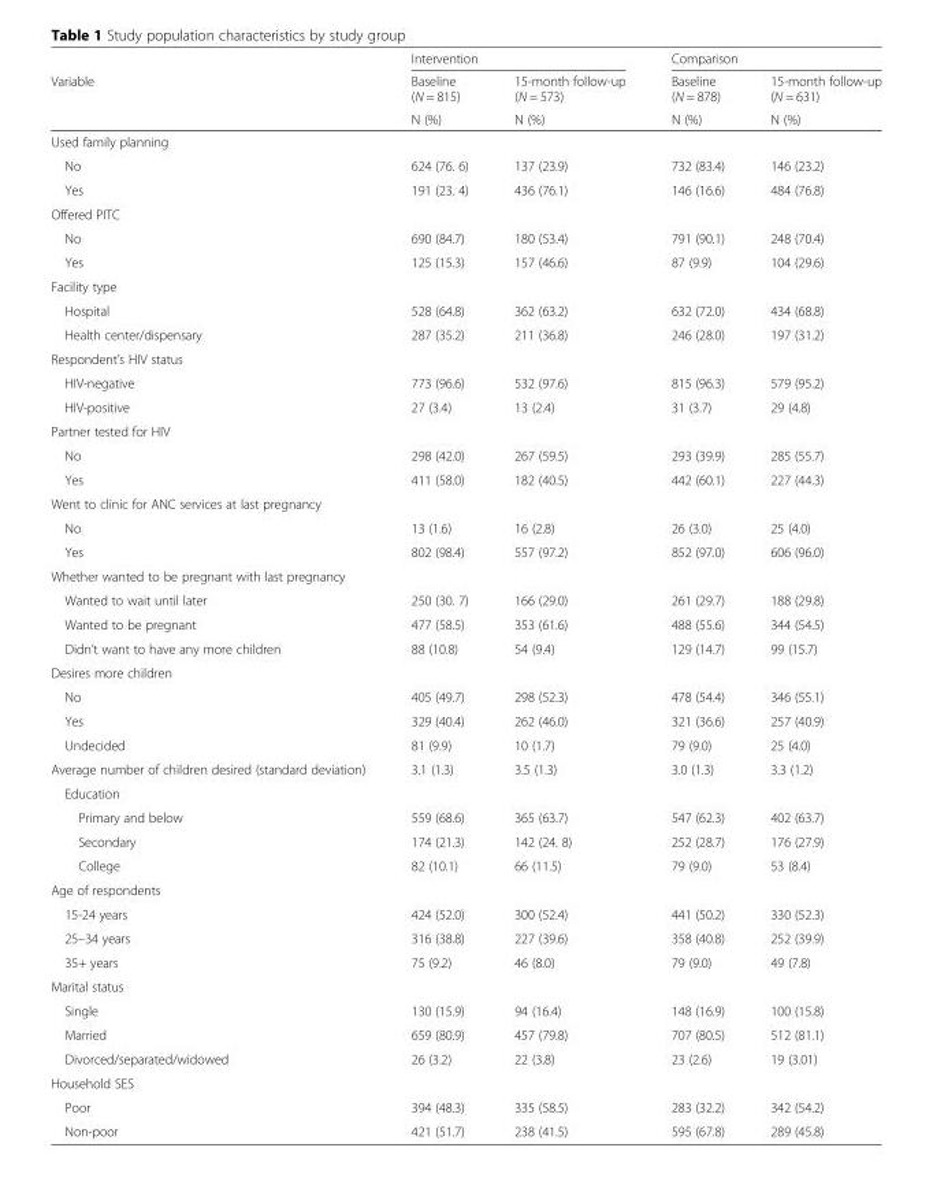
<table><thead><tr><td rowspan="3">Variable</td><td colspan="2">Intervention</td><td colspan="2">Comparison</td></tr><tr><td rowspan="2">Baseline (N = 815) N (%)</td><td rowspan="2">15-month follow-up (N = 573) N (%)</td><td rowspan="2">Baseline (N = 878) N (%)</td><td rowspan="2">15-month follow-up (N = 631) N (%)</td></tr><tr></tr></thead><tbody><tr><td colspan="5">Used family planning</td></tr><tr><td>No</td><td>624 (76. 6)</td><td>137 (23.9)</td><td>732 (83.4)</td><td>146 (23.2)</td></tr><tr><td>Yes</td><td>191 (23. 4)</td><td>436 (76.1)</td><td>146 (16.6)</td><td>484 (76.8)</td></tr><tr><td colspan="5">Offered PITC</td></tr><tr><td>No</td><td>690 (84.7)</td><td>180 (53.4)</td><td>791 (90.1)</td><td>248 (70.4)</td></tr><tr><td>Yes</td><td>125 (15.3)</td><td>157 (46.6)</td><td>87 (9.9)</td><td>104 (29.6)</td></tr><tr><td colspan="5">Facility type</td></tr><tr><td>Hospital</td><td>528 (64.8)</td><td>362 (63.2)</td><td>632 (72.0)</td><td>434 (68.8)</td></tr><tr><td>Health center/dispensary</td><td>287 (35.2)</td><td>211 (36.8)</td><td>246 (28.0)</td><td>197 (31.2)</td></tr><tr><td colspan="5">Respondent’s HIV status</td></tr><tr><td>HIV-negative</td><td>773 (96.6)</td><td>532 (97.6)</td><td>815 (96.3)</td><td>579 (95.2)</td></tr><tr><td>HIV-positive</td><td>27 (3.4)</td><td>13 (2.4)</td><td>31 (3.7)</td><td>29 (4.8)</td></tr><tr><td colspan="5">Partner tested for HIV</td></tr><tr><td>No</td><td>298 (42.0)</td><td>267 (59.5)</td><td>293 (39.9)</td><td>285 (55.7)</td></tr><tr><td>Yes</td><td>411 (58.0)</td><td>182 (40.5)</td><td>442 (60.1)</td><td>227 (44.3)</td></tr><tr><td colspan="5">Went to clinic for ANC services at last pregnancy</td></tr><tr><td>No</td><td>13 (1.6)</td><td>16 (2.8)</td><td>26 (3.0)</td><td>25 (4.0)</td></tr><tr><td>Yes</td><td>802 (98.4)</td><td>557 (97.2)</td><td>852 (97.0)</td><td>606 (96.0)</td></tr><tr><td colspan="5">Whether wanted to be pregnant with last pregnancy</td></tr><tr><td>Wanted to wait until later</td><td>250 (30. 7)</td><td>166 (29.0)</td><td>261 (29.7)</td><td>188 (29.8)</td></tr><tr><td>Wanted to be pregnant</td><td>477 (58.5)</td><td>353 (61.6)</td><td>488 (55.6)</td><td>344 (54.5)</td></tr><tr><td>Didn’t want to have any more children</td><td>88 (10.8)</td><td>54 (9.4)</td><td>129 (14.7)</td><td>99 (15.7)</td></tr><tr><td colspan="5">Desires more children</td></tr><tr><td>No</td><td>405 (49.7)</td><td>298 (52.3)</td><td>478 (54.4)</td><td>346 (55.1)</td></tr><tr><td>Yes</td><td>329 (40.4)</td><td>262 (46.0)</td><td>321 (36.6)</td><td>257 (40.9)</td></tr><tr><td>Undecided</td><td>81 (9.9)</td><td>10 (1.7)</td><td>79 (9.0)</td><td>25 (4.0)</td></tr><tr><td>Average number of children desired (standard deviation)</td><td>3.1 (1.3)</td><td>3.5 (1.3)</td><td>3.0 (1.3)</td><td>3.3 (1.2)</td></tr><tr><td colspan="5">Education</td></tr><tr><td>Primary and below</td><td>559 (68.6)</td><td>365 (63.7)</td><td>547 (62.3)</td><td>402 (63.7)</td></tr><tr><td>Secondary</td><td>174 (21.3)</td><td>142 (24. 8)</td><td>252 (28.7)</td><td>176 (27.9)</td></tr><tr><td>College</td><td>82 (10.1)</td><td>66 (11.5)</td><td>79 (9.0)</td><td>53 (8.4)</td></tr><tr><td colspan="5">Age of respondents</td></tr><tr><td>15-24 years</td><td>424 (52.0)</td><td>300 (52.4)</td><td>441 (50.2)</td><td>330 (52.3)</td></tr><tr><td>25–34 years</td><td>316 (38.8)</td><td>227 (39.6)</td><td>358 (40.8)</td><td>252 (39.9)</td></tr><tr><td>35+ years</td><td>75 (9.2)</td><td>46 (8.0)</td><td>79 (9.0)</td><td>49 (7.8)</td></tr><tr><td colspan="5">Marital status</td></tr><tr><td>Single</td><td>130 (15.9)</td><td>94 (16.4)</td><td>148 (16.9)</td><td>100 (15.8)</td></tr><tr><td>Married</td><td>659 (80.9)</td><td>457 (79.8)</td><td>707 (80.5)</td><td>512 (81.1)</td></tr><tr><td>Divorced/separated/widowed</td><td>26 (3.2)</td><td>22 (3.8)</td><td>23 (2.6)</td><td>19 (3.01)</td></tr><tr><td colspan="5">Household SES</td></tr><tr><td>Poor</td><td>394 (48.3)</td><td>335 (58.5)</td><td>283 (32.2)</td><td>342 (54.2)</td></tr><tr><td>Non-poor</td><td>421 (51.7)</td><td>238 (41.5)</td><td>595 (67.8)</td><td>289 (45.8)</td></tr></tbody></table>